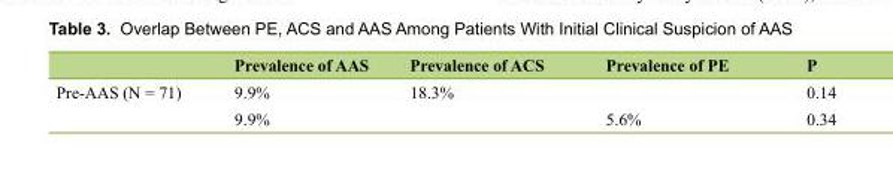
<table><thead><tr><td></td><td>Prevalence of AAS</td><td>Prevalence of ACS</td><td>Prevalence of PE</td><td>P</td></tr></thead><tbody><tr><td rowspan="2">Pre-AAS (N = 71)</td><td>9.9%</td><td>18.3%</td><td></td><td>0.14</td></tr><tr><td>9.9%</td><td></td><td>5.6%</td><td>0.34</td></tr></tbody></table>